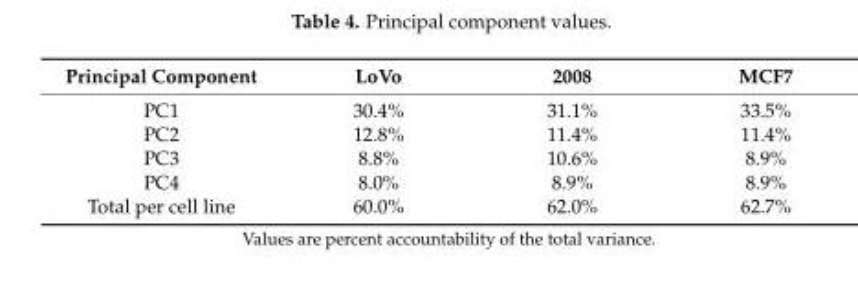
<table><thead><tr><td>Principal Component</td><td>LoVo</td><td>2008</td><td>MCF7</td></tr></thead><tbody><tr><td>PC1</td><td>30.4%</td><td>31.1%</td><td>33.5%</td></tr><tr><td>PC2</td><td>12.8%</td><td>11.4%</td><td>11.4%</td></tr><tr><td>PC3</td><td>8.8%</td><td>10.6%</td><td>8.9%</td></tr><tr><td>PC4</td><td>8.0%</td><td>8.9%</td><td>8.9%</td></tr><tr><td>Total per cell line</td><td>60.0%</td><td>62.0%</td><td>62.7%</td></tr></tbody></table>